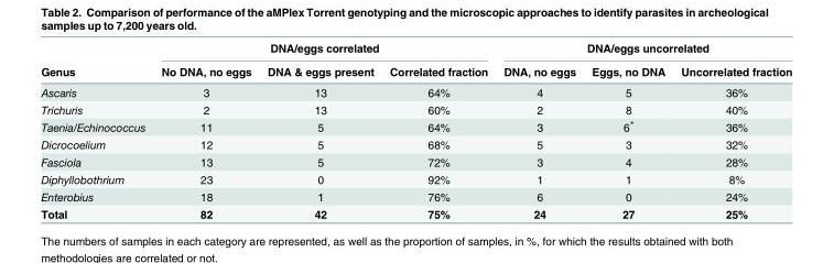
<table><thead><tr><td rowspan="2">Genus</td><td colspan="3">DNA/eggs correlated</td><td colspan="3">DNA/eggs uncorrelated</td></tr><tr><td>No DNA, no eggs</td><td>DNA &amp; eggs present</td><td>Correlated fraction</td><td>DNA, no eggs</td><td>Eggs, no DNA</td><td>Uncorrelated fraction</td></tr></thead><tbody><tr><td>Ascaris</td><td>3</td><td>13</td><td>64%</td><td>4</td><td>5</td><td>36%</td></tr><tr><td>Trichuris</td><td>2</td><td>13</td><td>60%</td><td>2</td><td>8</td><td>40%</td></tr><tr><td>Taenia/Echinococcus</td><td>11</td><td>5</td><td>64%</td><td>3</td><td>6*</td><td>36%</td></tr><tr><td>Dicrocoelium</td><td>12</td><td>5</td><td>68%</td><td>5</td><td>3</td><td>32%</td></tr><tr><td>Fasciola</td><td>13</td><td>5</td><td>72%</td><td>3</td><td>4</td><td>28%</td></tr><tr><td>Diphyllobothrium</td><td>23</td><td>0</td><td>92%</td><td>1</td><td>1</td><td>8%</td></tr><tr><td>Enterobius</td><td>18</td><td>1</td><td>76%</td><td>6</td><td>0</td><td>24%</td></tr><tr><td>Total</td><td>82</td><td>42</td><td>75%</td><td>24</td><td>27</td><td>25%</td></tr></tbody></table>